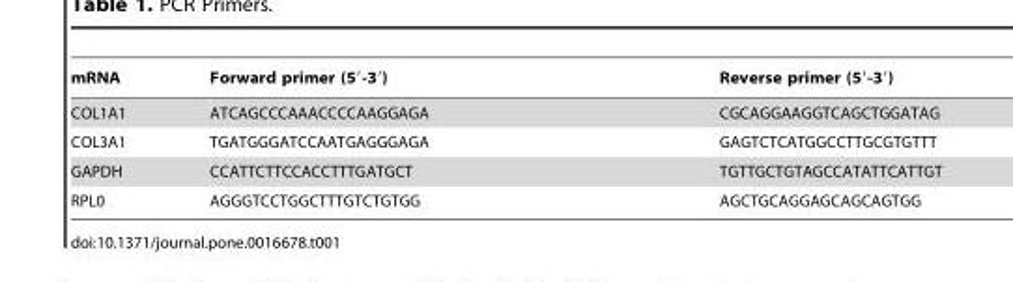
<table><thead><tr><td>mRNA</td><td>Forward primer (5′-3′)</td><td>Reverse primer (5′-3′)</td></tr></thead><tbody><tr><td>COL1A1</td><td>ATCAGCCCAAACCCCAAGGAGA</td><td>CGCAGGAAGGTCAGCTGGATAG</td></tr><tr><td>COL3A1</td><td>TGATGGGATCCAATGAGGGAGA</td><td>GAGTCTCATGGCCTTGCGTGTTT</td></tr><tr><td>GAPDH</td><td>CCATTCTTCCACCTTTGATGCT</td><td>TGTTGCTGTAGCCATATTCATTGT</td></tr><tr><td>RPL0</td><td>AGGGTCCTGGCTTTGTCTGTGG</td><td>AGCTGCAGGAGCAGCAGTGG</td></tr></tbody></table>